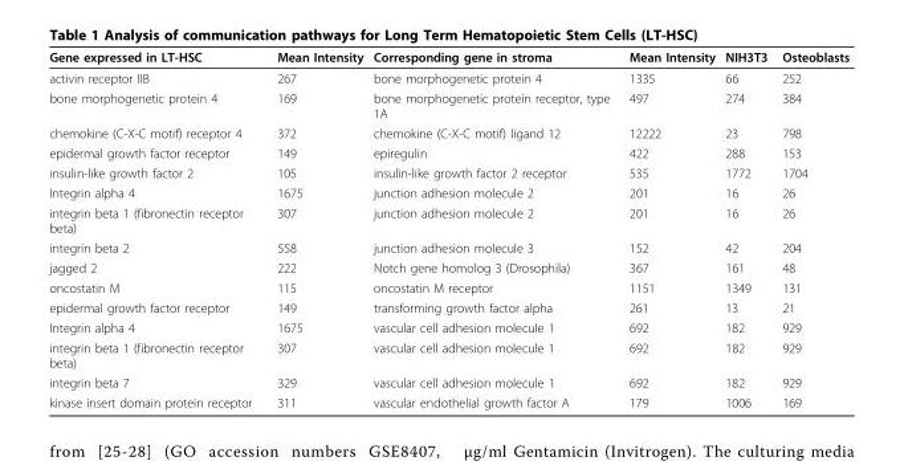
<table><thead><tr><td>Gene expressed in LT-HSC</td><td>Mean Intensity</td><td>Corresponding gene in stroma</td><td>Mean Intensity</td><td>NIH3T3</td><td>Osteoblasts</td></tr></thead><tbody><tr><td>activin receptor IIB</td><td>267</td><td>bone morphogenetic protein 4</td><td>1335</td><td>66</td><td>252</td></tr><tr><td>bone morphogenetic protein 4</td><td>169</td><td>bone morphogenetic protein receptor, type 1A</td><td>497</td><td>274</td><td>384</td></tr><tr><td>chemokine (C-X-C motif) receptor 4</td><td>372</td><td>chemokine (C-X-C motif) ligand 12</td><td>12222</td><td>23</td><td>798</td></tr><tr><td>epidermal growth factor receptor</td><td>149</td><td>epiregulin</td><td>422</td><td>288</td><td>153</td></tr><tr><td>insulin-like growth factor 2</td><td>105</td><td>insulin-like growth factor 2 receptor</td><td>535</td><td>1772</td><td>1704</td></tr><tr><td>Integrin alpha 4</td><td>1675</td><td>junction adhesion molecule 2</td><td>201</td><td>16</td><td>26</td></tr><tr><td>integrin beta 1 (fibronectin receptor beta)</td><td>307</td><td>junction adhesion molecule 2</td><td>201</td><td>16</td><td>26</td></tr><tr><td>integrin beta 2</td><td>558</td><td>junction adhesion molecule 3</td><td>152</td><td>42</td><td>204</td></tr><tr><td>jagged 2</td><td>222</td><td>Notch gene homolog 3 (Drosophila)</td><td>367</td><td>161</td><td>48</td></tr><tr><td>oncostatin M</td><td>115</td><td>oncostatin M receptor</td><td>1151</td><td>1349</td><td>131</td></tr><tr><td>epidermal growth factor receptor</td><td>149</td><td>transforming growth factor alpha</td><td>261</td><td>13</td><td>21</td></tr><tr><td>Integrin alpha 4</td><td>1675</td><td>vascular cell adhesion molecule 1</td><td>692</td><td>182</td><td>929</td></tr><tr><td>integrin beta 1 (fibronectin receptor beta)</td><td>307</td><td>vascular cell adhesion molecule 1</td><td>692</td><td>182</td><td>929</td></tr><tr><td>integrin beta 7</td><td>329</td><td>vascular cell adhesion molecule 1</td><td>692</td><td>182</td><td>929</td></tr><tr><td>kinase insert domain protein receptor</td><td>311</td><td>vascular endothelial growth factor A</td><td>179</td><td>1006</td><td>169</td></tr></tbody></table>